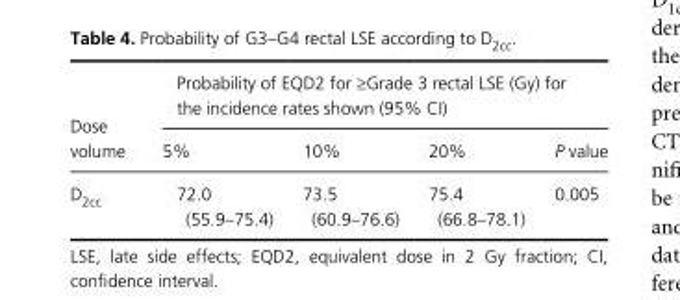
<table><thead><tr><td rowspan="2">Dose volume</td><td colspan="4">Probability of EQD2 for ≥Grade 3 rectal LSE (Gy) for the incidence rates shown (95% CI)</td></tr><tr><td>5%</td><td>10%</td><td>20%</td><td>P value</td></tr></thead><tbody><tr><td>D<sub>2cc</sub></td><td>72.0 (55.9–75.4)</td><td>73.5 (60.9–76.6)</td><td>75.4 (66.8–78.1)</td><td>0.005</td></tr></tbody></table>